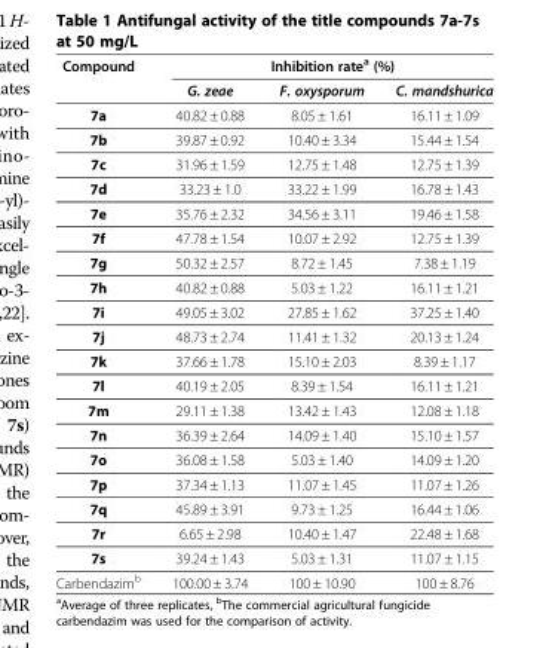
<table><thead><tr><td rowspan="2">Compound</td><td colspan="3">Inhibition rate<sup>a</sup> (%)</td></tr><tr><td>G. zeae</td><td>F. oxysporum</td><td>C. mandshurica</td></tr></thead><tbody><tr><td>7a</td><td>40.82 ± 0.88</td><td>8.05 ± 1.61</td><td>16.11 ± 1.09</td></tr><tr><td>7b</td><td>39.87 ± 0.92</td><td>10.40 ± 3.34</td><td>15.44 ± 1.54</td></tr><tr><td>7c</td><td>31.96 ± 1.59</td><td>12.75 ± 1.48</td><td>12.75 ± 1.39</td></tr><tr><td>7d</td><td>33.23 ± 1.0</td><td>33.22 ± 1.99</td><td>16.78 ± 1.43</td></tr><tr><td>7e</td><td>35.76 ± 2.32</td><td>34.56 ± 3.11</td><td>19.46 ± 1.58</td></tr><tr><td>7f</td><td>47.78 ± 1.54</td><td>10.07 ± 2.92</td><td>12.75 ± 1.39</td></tr><tr><td>7g</td><td>50.32 ± 2.57</td><td>8.72 ± 1.45</td><td>7.38 ± 1.19</td></tr><tr><td>7h</td><td>40.82 ± 0.88</td><td>5.03 ± 1.22</td><td>16.11 ± 1.21</td></tr><tr><td>7i</td><td>49.05 ± 3.02</td><td>27.85 ± 1.62</td><td>37.25 ± 1.40</td></tr><tr><td>7j</td><td>48.73 ± 2.74</td><td>11.41 ± 1.32</td><td>20.13 ± 1.24</td></tr><tr><td>7k</td><td>37.66 ± 1.78</td><td>15.10 ± 2.03</td><td>8.39 ± 1.17</td></tr><tr><td>7l</td><td>40.19 ± 2.05</td><td>8.39 ± 1.54</td><td>16.11 ± 1.21</td></tr><tr><td>7m</td><td>29.11 ± 1.38</td><td>13.42 ± 1.43</td><td>12.08 ± 1.18</td></tr><tr><td>7n</td><td>36.39 ± 2.64</td><td>14.09 ± 1.40</td><td>15.10 ± 1.57</td></tr><tr><td>7o</td><td>36.08 ± 1.58</td><td>5.03 ± 1.40</td><td>14.09 ± 1.20</td></tr><tr><td>7p</td><td>37.34 ± 1.13</td><td>11.07 ± 1.45</td><td>11.07 ± 1.26</td></tr><tr><td>7q</td><td>45.89 ± 3.91</td><td>9.73 ± 1.25</td><td>16.44 ± 1.06</td></tr><tr><td>7r</td><td>6.65 ± 2.98</td><td>10.40 ± 1.47</td><td>22.48 ± 1.68</td></tr><tr><td>7s</td><td>39.24 ± 1.43</td><td>5.03 ± 1.31</td><td>11.07 ± 1.15</td></tr><tr><td>Carbendazim<sup>b</sup></td><td>100.00 ± 3.74</td><td>100 ± 10.90</td><td>100 ± 8.76</td></tr></tbody></table>